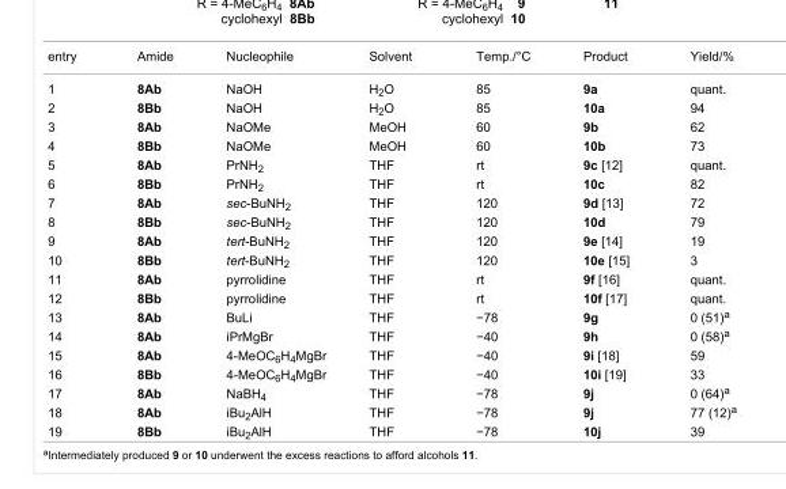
<table><tbody><tr><td>entry</td><td>Amide</td><td>Nucleophile</td><td>Solvent</td><td>Temp./°C</td><td>Product</td><td>Yield/%</td></tr><tr><td>1</td><td>8Ab</td><td>NaOH</td><td>H<sub>2</sub>O</td><td>85</td><td>9a</td><td>quant.</td></tr><tr><td>2</td><td>8Bb</td><td>NaOH</td><td>H<sub>2</sub>O</td><td>85</td><td>10a</td><td>94</td></tr><tr><td>3</td><td>8Ab</td><td>NaOMe</td><td>MeOH</td><td>60</td><td>9b</td><td>62</td></tr><tr><td>4</td><td>8Bb</td><td>NaOMe</td><td>MeOH</td><td>60</td><td>10b</td><td>73</td></tr><tr><td>5</td><td>8Ab</td><td>PrNH<sub>2</sub></td><td>THF</td><td>rt</td><td>9c [12]</td><td>quant.</td></tr><tr><td>6</td><td>8Bb</td><td>PrNH<sub>2</sub></td><td>THF</td><td>rt</td><td>10c</td><td>82</td></tr><tr><td>7</td><td>8Ab</td><td>sec-BuNH<sub>2</sub></td><td>THF</td><td>120</td><td>9d [13]</td><td>72</td></tr><tr><td>8</td><td>8Bb</td><td>sec-BuNH<sub>2</sub></td><td>THF</td><td>120</td><td>10d</td><td>79</td></tr><tr><td>9</td><td>8Ab</td><td>tert-BuNH<sub>2</sub></td><td>THF</td><td>120</td><td>9e [14]</td><td>19</td></tr><tr><td>10</td><td>8Bb</td><td>tert-BuNH<sub>2</sub></td><td>THF</td><td>120</td><td>10e [15]</td><td>3</td></tr><tr><td>11</td><td>8Ab</td><td>pyrrolidine</td><td>THF</td><td>rt</td><td>9f [16]</td><td>quant.</td></tr><tr><td>12</td><td>8Bb</td><td>pyrrolidine</td><td>THF</td><td>rt</td><td>10f [17]</td><td>quant.</td></tr><tr><td>13</td><td>8Ab</td><td>BuLi</td><td>THF</td><td>−78</td><td>9g</td><td>0 (51)<sup>a</sup></td></tr><tr><td>14</td><td>8Ab</td><td>iPrMgBr</td><td>THF</td><td>−40</td><td>9h</td><td>0 (58)<sup>a</sup></td></tr><tr><td>15</td><td>8Ab</td><td>4-MeOC<sub>6</sub>H<sub>4</sub>MgBr</td><td>THF</td><td>−40</td><td>9i [18]</td><td>59</td></tr><tr><td>16</td><td>8Bb</td><td>4-MeOC<sub>6</sub>H<sub>4</sub>MgBr</td><td>THF</td><td>−40</td><td>10i [19]</td><td>33</td></tr><tr><td>17</td><td>8Ab</td><td>NaBH<sub>4</sub></td><td>THF</td><td>−78</td><td>9j</td><td>0 (64)<sup>a</sup></td></tr><tr><td>18</td><td>8Ab</td><td>iBu<sub>2</sub>AlH</td><td>THF</td><td>−78</td><td>9j</td><td>77 (12)<sup>a</sup></td></tr><tr><td>19</td><td>8Bb</td><td>iBu<sub>2</sub>AlH</td><td>THF</td><td>−78</td><td>10j</td><td>39</td></tr></tbody></table>